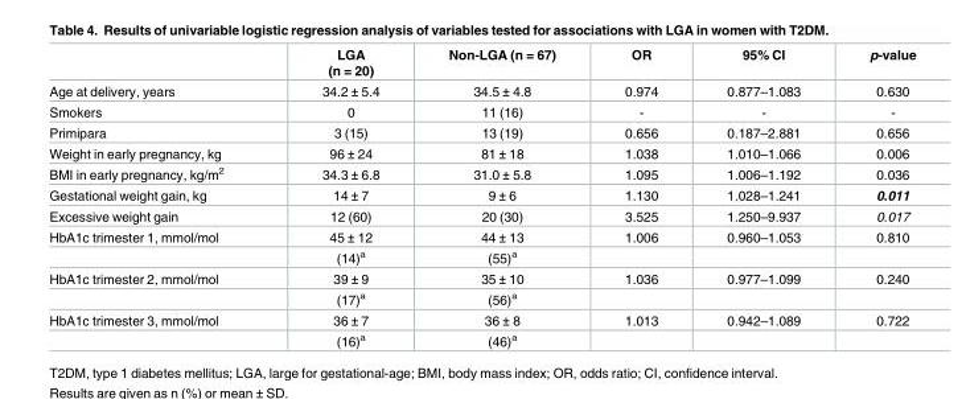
<table><thead><tr><td></td><td>LGA (n = 20)</td><td>Non-LGA (n = 67)</td><td>OR</td><td>95% CI</td><td>p-value</td></tr></thead><tbody><tr><td>Age at delivery, years</td><td>34.2 ± 5.4</td><td>34.5 ± 4.8</td><td>0.974</td><td>0.877–1.083</td><td>0.630</td></tr><tr><td>Smokers</td><td>0</td><td>11 (16)</td><td>-</td><td>-</td><td>-</td></tr><tr><td>Primipara</td><td>3 (15)</td><td>13 (19)</td><td>0.656</td><td>0.187–2.881</td><td>0.656</td></tr><tr><td>Weight in early pregnancy, kg</td><td>96 ± 24</td><td>81 ± 18</td><td>1.038</td><td>1.010–1.066</td><td>0.006</td></tr><tr><td>BMI in early pregnancy, kg/m<sup>2</sup></td><td>34.3 ± 6.8</td><td>31.0 ± 5.8</td><td>1.095</td><td>1.006–1.192</td><td>0.036</td></tr><tr><td>Gestational weight gain, kg</td><td>14 ± 7</td><td>9 ± 6</td><td>1.130</td><td>1.028–1.241</td><td>0.011</td></tr><tr><td>Excessive weight gain</td><td>12 (60)</td><td>20 (30)</td><td>3.525</td><td>1.250–9.937</td><td>0.017</td></tr><tr><td rowspan="2">HbA1c trimester 1, mmol/mol</td><td>45 ± 12</td><td>44 ± 13</td><td>1.006</td><td>0.960–1.053</td><td>0.810</td></tr><tr><td>(14)<sup>a</sup></td><td>(55)<sup>a</sup></td><td></td><td></td><td></td></tr><tr><td rowspan="2">HbA1c trimester 2, mmol/mol</td><td>39 ± 9</td><td>35 ± 10</td><td>1.036</td><td>0.977–1.099</td><td>0.240</td></tr><tr><td>(17)<sup>a</sup></td><td>(56)<sup>a</sup></td><td></td><td></td><td></td></tr><tr><td rowspan="2">HbA1c trimester 3, mmol/mol</td><td>36 ± 7</td><td>36 ± 8</td><td>1.013</td><td>0.942–1.089</td><td>0.722</td></tr><tr><td>(16)<sup>a</sup></td><td>(46)<sup>a</sup></td><td></td><td></td><td></td></tr></tbody></table>